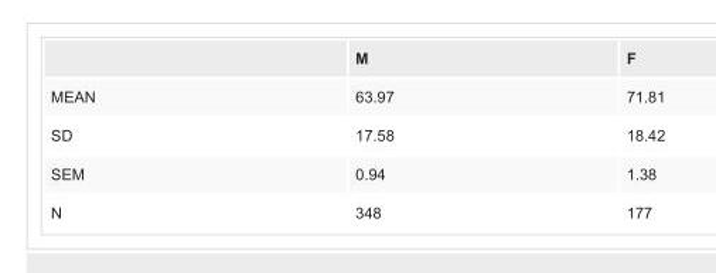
<table><thead><tr><td></td><td>M</td><td>F</td></tr></thead><tbody><tr><td>MEAN</td><td>63.97</td><td>71.81</td></tr><tr><td>SD</td><td>17.58</td><td>18.42</td></tr><tr><td>SEM</td><td>0.94</td><td>1.38</td></tr><tr><td>N</td><td>348</td><td>177</td></tr></tbody></table>